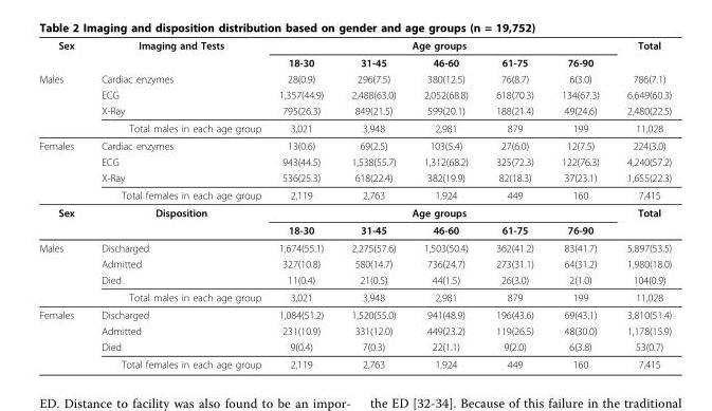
<table><thead><tr><td rowspan="6">Sex Males</td><td rowspan="6">Imaging and Tests Cardiac enzymes ECG X-Ray Total males in each age group</td><td colspan="5">Age groups</td><td rowspan="6">Total 786(7.1) 6,649(60.3) 2,480(22.5) 11,028</td></tr><tr><td rowspan="5">18-30 28(0.9) 1,357(44.9) 795(26.3) 3,021</td><td rowspan="5">31-45 296(7.5) 2,488(63.0) 849(21.5) 3,948</td><td rowspan="5">46-60 380(12.5) 2,052(68.8) 599(20.1) 2,981</td><td rowspan="5">61-75 76(8.7) 618(70.3) 188(21.4) 879</td><td rowspan="5">76-90 6(3.0) 134(67.3) 49(24.6) 199</td></tr><tr></tr><tr></tr><tr></tr><tr></tr></thead><tbody><tr><td rowspan="4">Females</td><td>Cardiac enzymes</td><td>13(0.6)</td><td>69(2.5)</td><td>103(5.4)</td><td>27(6.0)</td><td>12(7.5)</td><td>224(3.0)</td></tr><tr><td>ECG</td><td>943(44.5)</td><td>1,538(55.7)</td><td>1,312(68.2)</td><td>325(72.3)</td><td>122(76.3)</td><td>4,240(57.2)</td></tr><tr><td>X-Ray</td><td>536(25.3)</td><td>618(22.4)</td><td>382(19.9)</td><td>82(18.3)</td><td>37(23.1)</td><td>1,655(22.3)</td></tr><tr><td>Total females in each age group</td><td>2,119</td><td>2,763</td><td>1,924</td><td>449</td><td>160</td><td>7,415</td></tr><tr><td rowspan="2">Sex</td><td>Disposition</td><td colspan="5">Age groups</td><td>Total</td></tr><tr><td></td><td>18-30</td><td>31-45</td><td>46-60</td><td>61-75</td><td>76-90</td><td></td></tr><tr><td rowspan="4">Males</td><td>Discharged</td><td>1,674(55.1)</td><td>2,275(57.6)</td><td>1,503(50.4)</td><td>362(41.2)</td><td>83(41.7)</td><td>5,897(53.5)</td></tr><tr><td>Admitted</td><td>327(10.8)</td><td>580(14.7)</td><td>736(24.7)</td><td>273(31.1)</td><td>64(31.2)</td><td>1,980(18.0)</td></tr><tr><td>Died</td><td>11(0.4)</td><td>21(0.5)</td><td>44(1.5)</td><td>26(3.0)</td><td>2(1.0)</td><td>104(0.9)</td></tr><tr><td>Total males in each age group</td><td>3,021</td><td>3,948</td><td>2,981</td><td>879</td><td>199</td><td>11,028</td></tr><tr><td rowspan="4">Females</td><td>Discharged</td><td>1,084(51.2)</td><td>1,520(55.0)</td><td>941(48.9)</td><td>196(43.6)</td><td>69(43.1)</td><td>3,810(51.4)</td></tr><tr><td>Admitted</td><td>231(10.9)</td><td>331(12.0)</td><td>449(23.2)</td><td>119(26.5)</td><td>48(30.0)</td><td>1,178(15.9)</td></tr><tr><td>Died</td><td>9(0.4)</td><td>7(0.3)</td><td>22(1.1)</td><td>9(2.0)</td><td>6(3.8)</td><td>53(0.7)</td></tr><tr><td>Total females in each age group</td><td>2,119</td><td>2,763</td><td>1,924</td><td>449</td><td>160</td><td>7,415</td></tr></tbody></table>